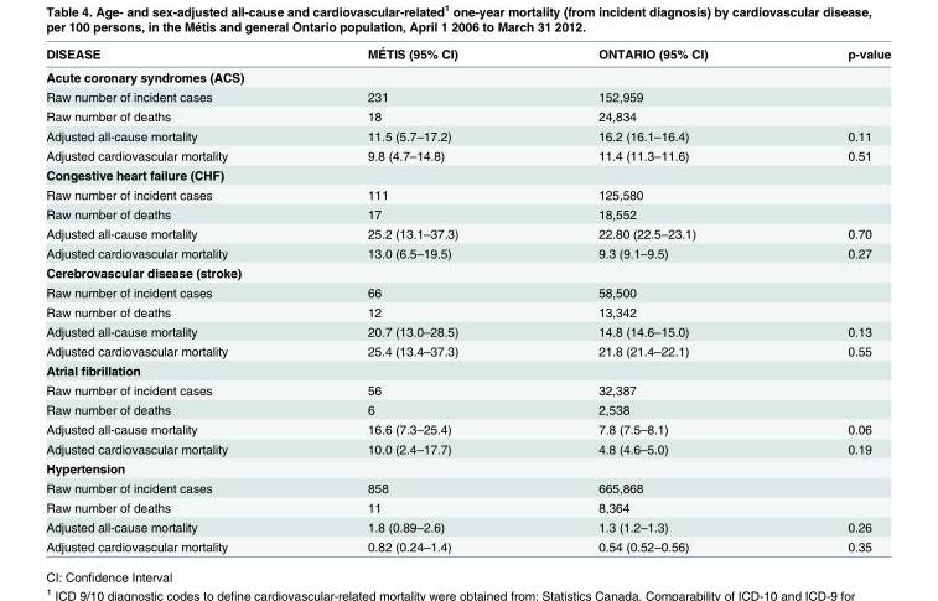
<table><thead><tr><td>DISEASE</td><td>MÉTIS (95% CI)</td><td>ONTARIO (95% CI)</td><td>p-value</td></tr></thead><tbody><tr><td colspan="4">Acute coronary syndromes (ACS)</td></tr><tr><td>Raw number of incident cases</td><td>231</td><td>152,959</td><td></td></tr><tr><td>Raw number of deaths</td><td>18</td><td>24,834</td><td></td></tr><tr><td>Adjusted all-cause mortality</td><td>11.5 (5.7–17.2)</td><td>16.2 (16.1–16.4)</td><td>0.11</td></tr><tr><td>Adjusted cardiovascular mortality</td><td>9.8 (4.7–14.8)</td><td>11.4 (11.3–11.6)</td><td>0.51</td></tr><tr><td colspan="4">Congestive heart failure (CHF)</td></tr><tr><td>Raw number of incident cases</td><td>111</td><td>125,580</td><td></td></tr><tr><td>Raw number of deaths</td><td>17</td><td>18,552</td><td></td></tr><tr><td>Adjusted all-cause mortality</td><td>25.2 (13.1–37.3)</td><td>22.80 (22.5–23.1)</td><td>0.70</td></tr><tr><td>Adjusted cardiovascular mortality</td><td>13.0 (6.5–19.5)</td><td>9.3 (9.1–9.5)</td><td>0.27</td></tr><tr><td colspan="4">Cerebrovascular disease (stroke)</td></tr><tr><td>Raw number of incident cases</td><td>66</td><td>58,500</td><td></td></tr><tr><td>Raw number of deaths</td><td>12</td><td>13,342</td><td></td></tr><tr><td>Adjusted all-cause mortality</td><td>20.7 (13.0–28.5)</td><td>14.8 (14.6–15.0)</td><td>0.13</td></tr><tr><td>Adjusted cardiovascular mortality</td><td>25.4 (13.4–37.3)</td><td>21.8 (21.4–22.1)</td><td>0.55</td></tr><tr><td colspan="4">Atrial fibrillation</td></tr><tr><td>Raw number of incident cases</td><td>56</td><td>32,387</td><td></td></tr><tr><td>Raw number of deaths</td><td>6</td><td>2,538</td><td></td></tr><tr><td>Adjusted all-cause mortality</td><td>16.6 (7.3–25.4)</td><td>7.8 (7.5–8.1)</td><td>0.06</td></tr><tr><td>Adjusted cardiovascular mortality</td><td>10.0 (2.4–17.7)</td><td>4.8 (4.6–5.0)</td><td>0.19</td></tr><tr><td colspan="4">Hypertension</td></tr><tr><td>Raw number of incident cases</td><td>858</td><td>665,868</td><td></td></tr><tr><td>Raw number of deaths</td><td>11</td><td>8,364</td><td></td></tr><tr><td>Adjusted all-cause mortality</td><td>1.8 (0.89–2.6)</td><td>1.3 (1.2–1.3)</td><td>0.26</td></tr><tr><td>Adjusted cardiovascular mortality</td><td>0.82 (0.24–1.4)</td><td>0.54 (0.52–0.56)</td><td>0.35</td></tr></tbody></table>